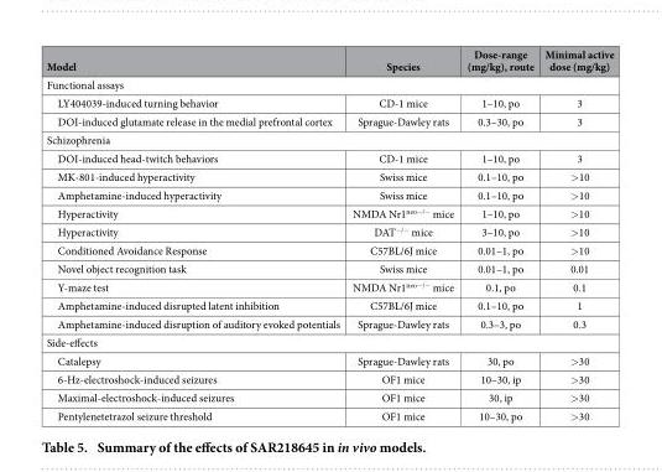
<table><thead><tr><td>Model</td><td>Species</td><td>Dose-range (mg/kg), route</td><td>Minimal active dose (mg/kg)</td></tr></thead><tbody><tr><td colspan="4">Functional assays</td></tr><tr><td>LY404039-induced turning behavior</td><td>CD-1 mice</td><td>1–10, po</td><td>3</td></tr><tr><td>DOI-induced glutamate release in the medial prefrontal cortex</td><td>Sprague-Dawley rats</td><td>0.3–30, po</td><td>3</td></tr><tr><td colspan="4">Schizophrenia</td></tr><tr><td>DOI-induced head-twitch behaviors</td><td>CD-1 mice</td><td>1–10, po</td><td>3</td></tr><tr><td>MK-801-induced hyperactivity</td><td>Swiss mice</td><td>0.1–10, po</td><td>&gt; 10</td></tr><tr><td>Amphetamine-induced hyperactivity</td><td>Swiss mice</td><td>0.1–10, po</td><td>&gt; 10</td></tr><tr><td>Hyperactivity</td><td>NMDA Nr1<sup>neo−/−</sup> mice</td><td>1–10, po</td><td>&gt; 10</td></tr><tr><td>Hyperactivity</td><td>DAT<sup>−/−</sup> mice</td><td>3–10, po</td><td>&gt; 10</td></tr><tr><td>Conditioned Avoidance Response</td><td>C57BL/6J mice</td><td>0.01–1, po</td><td>&gt; 10</td></tr><tr><td>Novel object recognition task</td><td>Swiss mice</td><td>0.01–1, po</td><td>0.01</td></tr><tr><td>Y-maze test</td><td>NMDA Nr1<sup>neo−/−</sup> mice</td><td>0.1, po</td><td>0.1</td></tr><tr><td>Amphetamine-induced disrupted latent inhibition</td><td>C57BL/6J mice</td><td>0.1–10, po</td><td>1</td></tr><tr><td>Amphetamine-induced disruption of auditory evoked potentials</td><td>Sprague-Dawley rats</td><td>0.3–3, po</td><td>0.3</td></tr><tr><td colspan="4">Side-effects</td></tr><tr><td>Catalepsy</td><td>Sprague-Dawley rats</td><td>30, po</td><td>&gt; 30</td></tr><tr><td>6-Hz-electroshock-induced seizures</td><td>OF1 mice</td><td>10–30, ip</td><td>&gt; 30</td></tr><tr><td>Maximal-electroshock-induced seizures</td><td>OF1 mice</td><td>30, ip</td><td>&gt; 30</td></tr><tr><td>Pentylenetetrazol seizure threshold</td><td>OF1 mice</td><td>10–30, po</td><td>&gt; 30</td></tr></tbody></table>